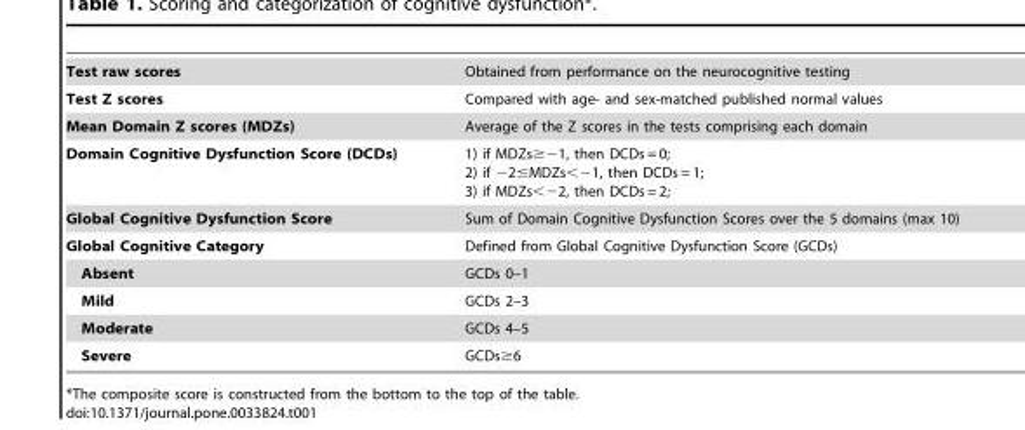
<table><tbody><tr><td>Test raw scores</td><td>Obtained from performance on the neurocognitive testing</td></tr><tr><td>Test Z scores</td><td>Compared with age- and sex-matched published normal values</td></tr><tr><td>Mean Domain Z scores (MDZs)</td><td>Average of the Z scores in the tests comprising each domain</td></tr><tr><td>Domain Cognitive Dysfunction Score (DCDs)</td><td>1) if MDZs≥−1, then DCDs = 0; 2) if −2≤MDZs&lt;−1, then DCDs = 1; 3) if MDZs&lt;−2, then DCDs = 2;</td></tr><tr><td>Global Cognitive Dysfunction Score</td><td>Sum of Domain Cognitive Dysfunction Scores over the 5 domains (max 10)</td></tr><tr><td>Global Cognitive Category</td><td>Defined from Global Cognitive Dysfunction Score (GCDs)</td></tr><tr><td>Absent</td><td>GCDs 0–1</td></tr><tr><td>Mild</td><td>GCDs 2–3</td></tr><tr><td>Moderate</td><td>GCDs 4–5</td></tr><tr><td>Severe</td><td>GCDs≥6</td></tr></tbody></table>